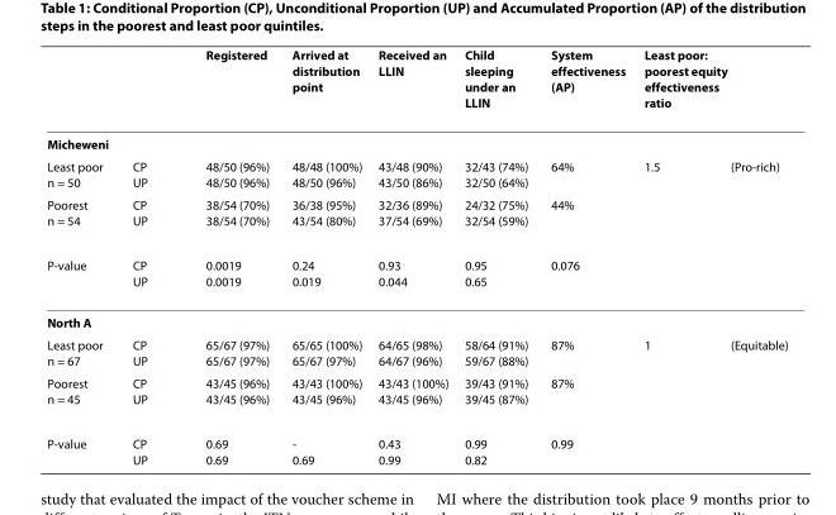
<table><thead><tr><td rowspan="2">Micheweni</td><td rowspan="2"></td><td rowspan="2">Registered</td><td rowspan="2">Arrived at distribution point</td><td rowspan="2">Received an LLIN</td><td rowspan="2">Child sleeping under an LLIN</td><td rowspan="2">System effectiveness (AP)</td><td colspan="2">Least poor: poorest equity effectiveness ratio</td></tr><tr><td></td><td></td></tr></thead><tbody><tr><td>Least poor n = 50</td><td>CP UP</td><td>48/50 (96%) 48/50 (96%)</td><td>48/48 (100%) 48/50 (96%)</td><td>43/48 (90%) 43/50 (86%)</td><td>32/43 (74%) 32/50 (64%)</td><td>64%</td><td>1.5</td><td>(Pro-rich)</td></tr><tr><td>Poorest n = 54</td><td>CP UP</td><td>38/54 (70%) 38/54 (70%)</td><td>36/38 (95%) 43/54 (80%)</td><td>32/36 (89%) 37/54 (69%)</td><td>24/32 (75%) 32/54 (59%)</td><td>44%</td><td></td><td></td></tr><tr><td>P-value</td><td>CP UP</td><td>0.0019 0.0019</td><td>0.24 0.019</td><td>0.93 0.044</td><td>0.95 0.65</td><td>0.076</td><td></td><td></td></tr><tr><td colspan="9">North A</td></tr><tr><td>Least poor n = 67</td><td>CP UP</td><td>65/67 (97%) 65/67 (97%)</td><td>65/65 (100%) 65/67 (97%)</td><td>64/65 (98%) 64/67 (96%)</td><td>58/64 (91%) 59/67 (88%)</td><td>87%</td><td>1</td><td>(Equitable)</td></tr><tr><td>Poorest n = 45</td><td>CP UP</td><td>43/45 (96%) 43/45 (96%)</td><td>43/43 (100%) 43/45 (96%)</td><td>43/43 (100%) 43/45 (96%)</td><td>39/43 (91%) 39/45 (87%)</td><td>87%</td><td></td><td></td></tr><tr><td>P-value</td><td>CP UP</td><td>0.69 0.69</td><td>- 0.69</td><td>0.43 0.99</td><td>0.99 0.82</td><td>0.99</td><td></td><td></td></tr></tbody></table>